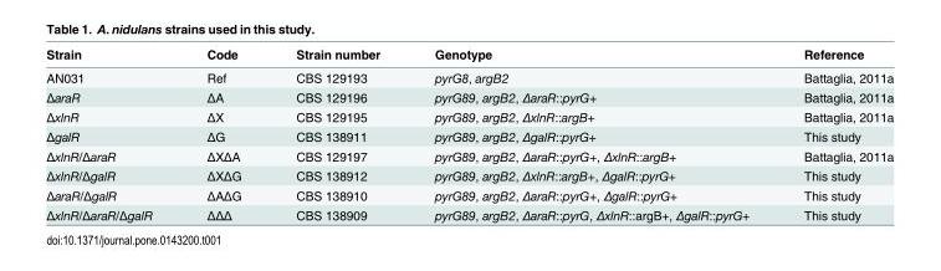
<table><thead><tr><td>Strain</td><td>Code</td><td>Strain number</td><td>Genotype</td><td>Reference</td></tr></thead><tbody><tr><td>AN031</td><td>Ref</td><td>CBS 129193</td><td>pyrG8, argB2</td><td>Battaglia, 2011a</td></tr><tr><td>ΔaraR</td><td>ΔA</td><td>CBS 129196</td><td>pyrG89, argB2, ΔaraR::pyrG+</td><td>Battaglia, 2011a</td></tr><tr><td>ΔxlnR</td><td>ΔX</td><td>CBS 129195</td><td>pyrG89, argB2, ΔxlnR::argB+</td><td>Battaglia, 2011a</td></tr><tr><td>ΔgalR</td><td>ΔG</td><td>CBS 138911</td><td>pyrG89, argB2, ΔgalR::pyrG+</td><td>This study</td></tr><tr><td>ΔxlnR/ΔaraR</td><td>ΔXΔA</td><td>CBS 129197</td><td>pyrG89, argB2, ΔaraR::pyrG+, ΔxlnR::argB+</td><td>Battaglia, 2011a</td></tr><tr><td>ΔxlnR/ΔgalR</td><td>ΔXΔG</td><td>CBS 138912</td><td>pyrG89, argB2, ΔxlnR::argB+, ΔgalR::pyrG+</td><td>This study</td></tr><tr><td>ΔaraR/ΔgalR</td><td>ΔAΔG</td><td>CBS 138910</td><td>pyrG89, argB2, ΔaraR::pyrG+, ΔgalR::pyrG+</td><td>This study</td></tr><tr><td>ΔxlnR/ΔaraR/ΔgalR</td><td>ΔΔΔ</td><td>CBS 138909</td><td>pyrG89, argB2, ΔaraR::pyrG, ΔxlnR::argB+, ΔgalR::pyrG+</td><td>This study</td></tr></tbody></table>